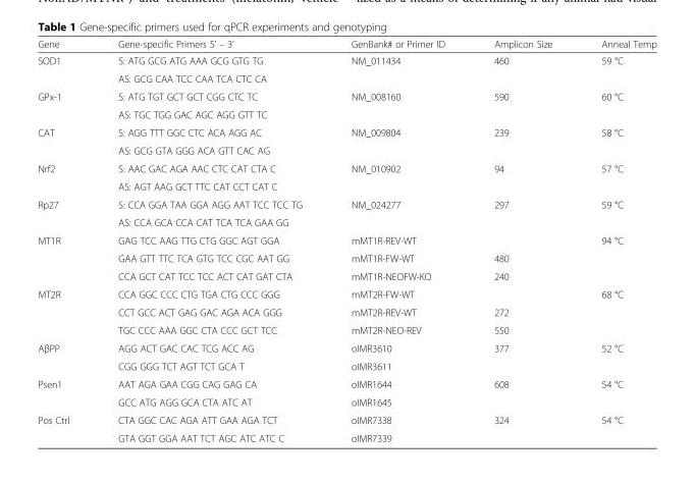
<table><thead><tr><td>Gene</td><td>Gene-specific Primers 5’ – 3’</td><td>GenBank# or Primer ID</td><td>Amplicon Size</td><td>Anneal Temp</td></tr></thead><tbody><tr><td rowspan="2">SOD1</td><td>S: ATG GCG ATG AAA GCG GTG TG</td><td>NM_011434</td><td>460</td><td>59 °C</td></tr><tr><td>AS: GCG CAA TCC CAA TCA CTC CA</td><td></td><td></td><td></td></tr><tr><td rowspan="2">GPx-1</td><td>S: ATG TGT GCT GCT CGG CTC TC</td><td>NM_008160</td><td>590</td><td>60 °C</td></tr><tr><td>AS: TGC TGG GAC AGC AGG GTT TC</td><td></td><td></td><td></td></tr><tr><td rowspan="2">CAT</td><td>S: AGG TTT GGC CTC ACA AGG AC</td><td>NM_009804</td><td>239</td><td>58 °C</td></tr><tr><td>AS: GCG GTA GGG ACA GTT CAC AG</td><td></td><td></td><td></td></tr><tr><td rowspan="2">Nrf2</td><td>S: AAC GAC AGA AAC CTC CAT CTA C</td><td>NM_010902</td><td>94</td><td>57 °C</td></tr><tr><td>AS: AGT AAG GCT TTC CAT CCT CAT C</td><td></td><td></td><td></td></tr><tr><td rowspan="2">Rp27</td><td>S: CCA GGA TAA GGA AGG AAT TCC TCC TG</td><td>NM_024277</td><td>297</td><td>59 °C</td></tr><tr><td>AS: CCA GCA CCA CAT TCA TCA GAA GG</td><td></td><td></td><td></td></tr><tr><td rowspan="3">MT1R</td><td>GAG TCC AAG TTG CTG GGC AGT GGA</td><td>mMT1R-REV-WT</td><td></td><td>94 °C</td></tr><tr><td>GAA GTT TTC TCA GTG TCC CGC AAT GG</td><td>mMT1R-FW-WT</td><td>480</td><td></td></tr><tr><td>CCA GCT CAT TCC TCC ACT CAT GAT CTA</td><td>mMT1R-NEOFW-KO</td><td>240</td><td></td></tr><tr><td rowspan="3">MT2R</td><td>CCA GGC CCC CTG TGA CTG CCC GGG</td><td>mMT2R-FW-WT</td><td></td><td>68 °C</td></tr><tr><td>CCT GCC ACT GAG GAC AGA ACA GGG</td><td>mMT2R-REV-WT</td><td>272</td><td></td></tr><tr><td>TGC CCC AAA GGC CTA CCC GCT TCC</td><td>mMT2R-NEO-REV</td><td>550</td><td></td></tr><tr><td rowspan="2">AβPP</td><td>AGG ACT GAC CAC TCG ACC AG</td><td>oIMR3610</td><td>377</td><td>52 °C</td></tr><tr><td>CGG GGG TCT AGT TCT GCA T</td><td>oIMR3611</td><td></td><td></td></tr><tr><td rowspan="2">Psen1</td><td>AAT AGA GAA CGG CAG GAG CA</td><td>oIMR1644</td><td>608</td><td>54 °C</td></tr><tr><td>GCC ATG AGG GCA CTA ATC AT</td><td>oIMR1645</td><td></td><td></td></tr><tr><td rowspan="2">Pos Ctrl</td><td>CTA GGC CAC AGA ATT GAA AGA TCT</td><td>oIMR7338</td><td>324</td><td>54 °C</td></tr><tr><td>GTA GGT GGA AAT TCT AGC ATC ATC C</td><td>oIMR7339</td><td></td><td></td></tr></tbody></table>